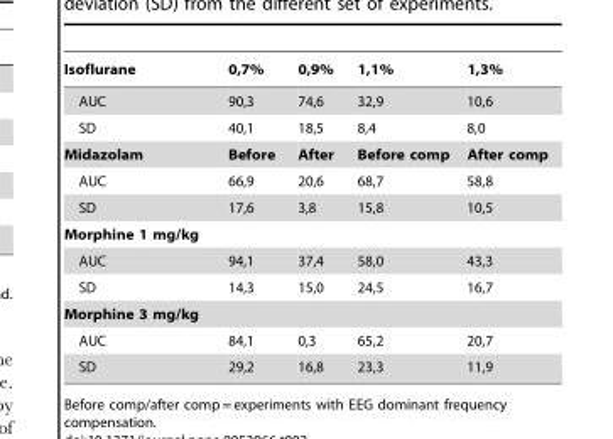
<table><thead><tr><td>Isoflurane</td><td>0,7%</td><td>0,9%</td><td>1,1%</td><td>1,3%</td></tr></thead><tbody><tr><td>AUC</td><td>90,3</td><td>74,6</td><td>32,9</td><td>10,6</td></tr><tr><td>SD</td><td>40,1</td><td>18,5</td><td>8,4</td><td>8,0</td></tr><tr><td>Midazolam</td><td>Before</td><td>After</td><td>Before comp</td><td>After comp</td></tr><tr><td>AUC</td><td>66,9</td><td>20,6</td><td>68,7</td><td>58,8</td></tr><tr><td>SD</td><td>17,6</td><td>3,8</td><td>15,8</td><td>10,5</td></tr><tr><td colspan="5">Morphine 1 mg/kg</td></tr><tr><td>AUC</td><td>94,1</td><td>37,4</td><td>58,0</td><td>43,3</td></tr><tr><td>SD</td><td>14,3</td><td>15,0</td><td>24,5</td><td>16,7</td></tr><tr><td colspan="5">Morphine 3 mg/kg</td></tr><tr><td>AUC</td><td>84,1</td><td>0,3</td><td>65,2</td><td>20,7</td></tr><tr><td>SD</td><td>29,2</td><td>16,8</td><td>23,3</td><td>11,9</td></tr></tbody></table>